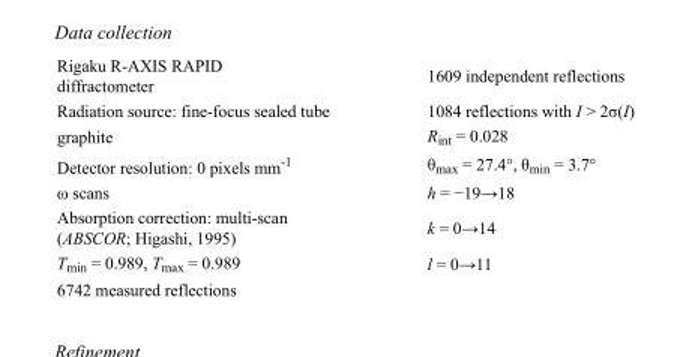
<table><tbody><tr><td>Rigaku R-AXIS RAPID diffractometer</td><td>1609 independent reflections</td></tr><tr><td>Radiation source: fine-focus sealed tube</td><td>1084 reflections with I &gt; 2σ(I)</td></tr><tr><td>graphite</td><td>R<sub>int</sub> = 0.028</td></tr><tr><td>Detector resolution: 0 pixels mm<sup>-1</sup></td><td>θ<sub>max</sub> = 27.4°, θ<sub>min</sub> = 3.7°</td></tr><tr><td>ω scans</td><td>h = −19→18</td></tr><tr><td>Absorption correction: multi-scan (ABSCOR; Higashi, 1995)</td><td>k = 0→14</td></tr><tr><td>T<sub>min</sub> = 0.989, T<sub>max</sub> = 0.989</td><td>l = 0→11</td></tr><tr><td>6742 measured reflections</td><td></td></tr></tbody></table>